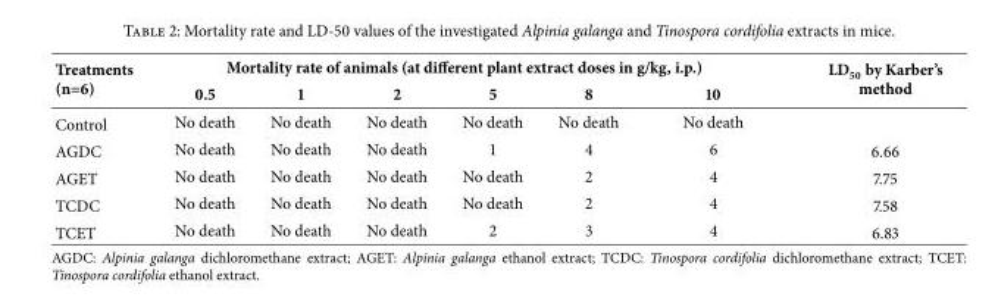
<table><thead><tr><td rowspan="2">Treatments (n=6)</td><td colspan="6">Mortality rate of animals (at different plant extract doses in g/kg, i.p.)</td><td rowspan="2">LD<sub>50</sub> by Karber’s method</td></tr><tr><td>0.5</td><td>1</td><td>2</td><td>5</td><td>8</td><td>10</td></tr></thead><tbody><tr><td>Control</td><td>No death</td><td>No death</td><td>No death</td><td>No death</td><td>No death</td><td>No death</td><td></td></tr><tr><td>AGDC</td><td>No death</td><td>No death</td><td>No death</td><td>1</td><td>4</td><td>6</td><td>6.66</td></tr><tr><td>AGET</td><td>No death</td><td>No death</td><td>No death</td><td>No death</td><td>2</td><td>4</td><td>7.75</td></tr><tr><td>TCDC</td><td>No death</td><td>No death</td><td>No death</td><td>No death</td><td>2</td><td>4</td><td>7.58</td></tr><tr><td>TCET</td><td>No death</td><td>No death</td><td>No death</td><td>2</td><td>3</td><td>4</td><td>6.83</td></tr></tbody></table>